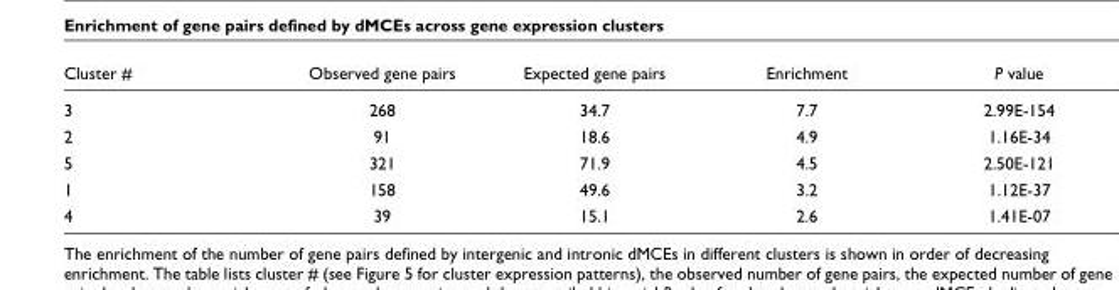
<table><thead><tr><td>Cluster #</td><td>Observed gene pairs</td><td>Expected gene pairs</td><td>Enrichment</td><td>P value</td></tr></thead><tbody><tr><td>3</td><td>268</td><td>34.7</td><td>7.7</td><td>2.99E-154</td></tr><tr><td>2</td><td>91</td><td>18.6</td><td>4.9</td><td>1.16E-34</td></tr><tr><td>5</td><td>321</td><td>71.9</td><td>4.5</td><td>2.50E-121</td></tr><tr><td>1</td><td>158</td><td>49.6</td><td>3.2</td><td>1.12E-37</td></tr><tr><td>4</td><td>39</td><td>15.1</td><td>2.6</td><td>1.41E-07</td></tr></tbody></table>